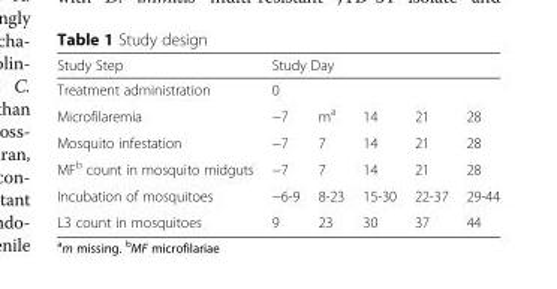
<table><thead><tr><td rowspan="2">Study Step Treatment administration</td><td colspan="5">Study Day</td></tr><tr><td>0</td><td></td><td></td><td></td><td></td></tr></thead><tbody><tr><td>Microfilaremia</td><td>−7</td><td>m<sup>a</sup></td><td>14</td><td>21</td><td>28</td></tr><tr><td>Mosquito infestation</td><td>−7</td><td>7</td><td>14</td><td>21</td><td>28</td></tr><tr><td>MF<sup>b</sup> count in mosquito midguts</td><td>−7</td><td>7</td><td>14</td><td>21</td><td>28</td></tr><tr><td>Incubation of mosquitoes</td><td>−6-9</td><td>8-23</td><td>15-30</td><td>22-37</td><td>29-44</td></tr><tr><td>L3 count in mosquitoes</td><td>9</td><td>23</td><td>30</td><td>37</td><td>44</td></tr></tbody></table>